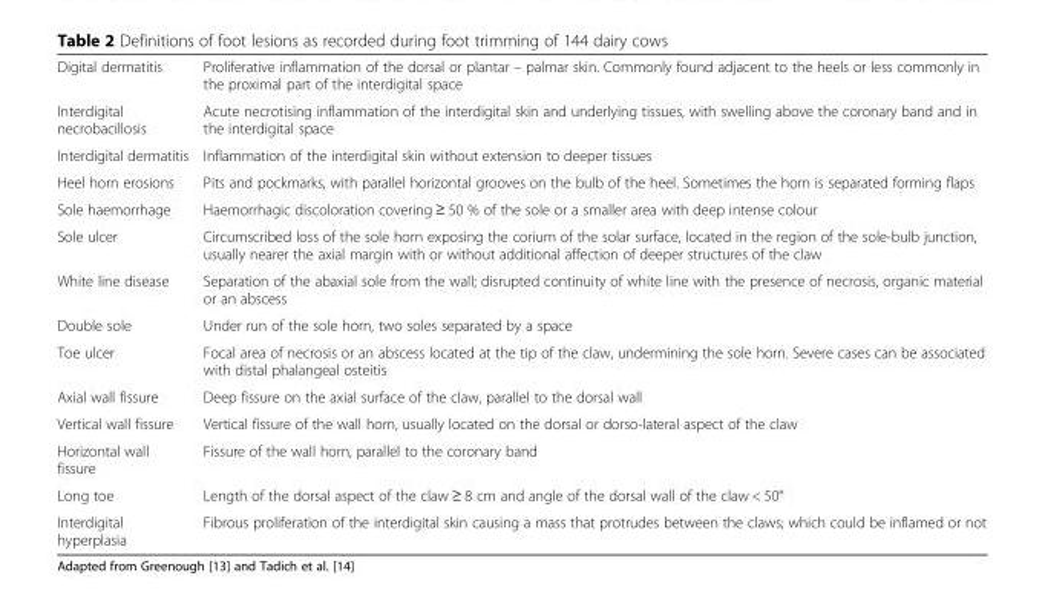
<table><tbody><tr><td>Digital dermatitis</td><td>Proliferative inflammation of the dorsal or plantar – palmar skin. Commonly found adjacent to the heels or less commonly in the proximal part of the interdigital space</td></tr><tr><td>Interdigital necrobacillosis</td><td>Acute necrotising inflammation of the interdigital skin and underlying tissues, with swelling above the coronary band and in the interdigital space</td></tr><tr><td>Interdigital dermatitis</td><td>Inflammation of the interdigital skin without extension to deeper tissues</td></tr><tr><td>Heel horn erosions</td><td>Pits and pockmarks, with parallel horizontal grooves on the bulb of the heel. Sometimes the horn is separated forming flaps</td></tr><tr><td>Sole haemorrhage</td><td>Haemorrhagic discoloration covering ≥ 50 % of the sole or a smaller area with deep intense colour</td></tr><tr><td>Sole ulcer</td><td>Circumscribed loss of the sole horn exposing the corium of the solar surface, located in the region of the sole-bulb junction, usually nearer the axial margin with or without additional affection of deeper structures of the claw</td></tr><tr><td>White line disease</td><td>Separation of the abaxial sole from the wall; disrupted continuity of white line with the presence of necrosis, organic material or an abscess</td></tr><tr><td>Double sole</td><td>Under run of the sole horn, two soles separated by a space</td></tr><tr><td>Toe ulcer</td><td>Focal area of necrosis or an abscess located at the tip of the claw, undermining the sole horn. Severe cases can be associated with distal phalangeal osteitis</td></tr><tr><td>Axial wall fissure</td><td>Deep fissure on the axial surface of the claw, parallel to the dorsal wall</td></tr><tr><td>Vertical wall fissure</td><td>Vertical fissure of the wall horn, usually located on the dorsal or dorso-lateral aspect of the claw</td></tr><tr><td>Horizontal wall fissure</td><td>Fissure of the wall horn, parallel to the coronary band</td></tr><tr><td>Long toe</td><td>Length of the dorsal aspect of the claw ≥ 8 cm and angle of the dorsal wall of the claw &lt; 50°</td></tr><tr><td>Interdigital hyperplasia</td><td>Fibrous proliferation of the interdigital skin causing a mass that protrudes between the claws; which could be inflamed or not</td></tr></tbody></table>